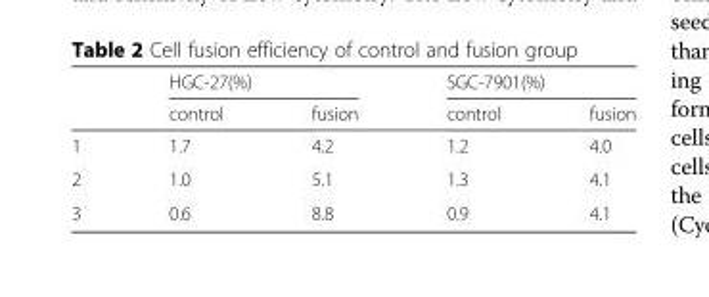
<table><thead><tr><td rowspan="2"></td><td colspan="2">HGC-27(%)</td><td colspan="2">SGC-7901(%)</td></tr><tr><td>control</td><td>fusion</td><td>control</td><td>fusion</td></tr></thead><tbody><tr><td>1</td><td>1.7</td><td>4.2</td><td>1.2</td><td>4.0</td></tr><tr><td>2</td><td>1.0</td><td>5.1</td><td>1.3</td><td>4.1</td></tr><tr><td>3</td><td>0.6</td><td>8.8</td><td>0.9</td><td>4.1</td></tr></tbody></table>